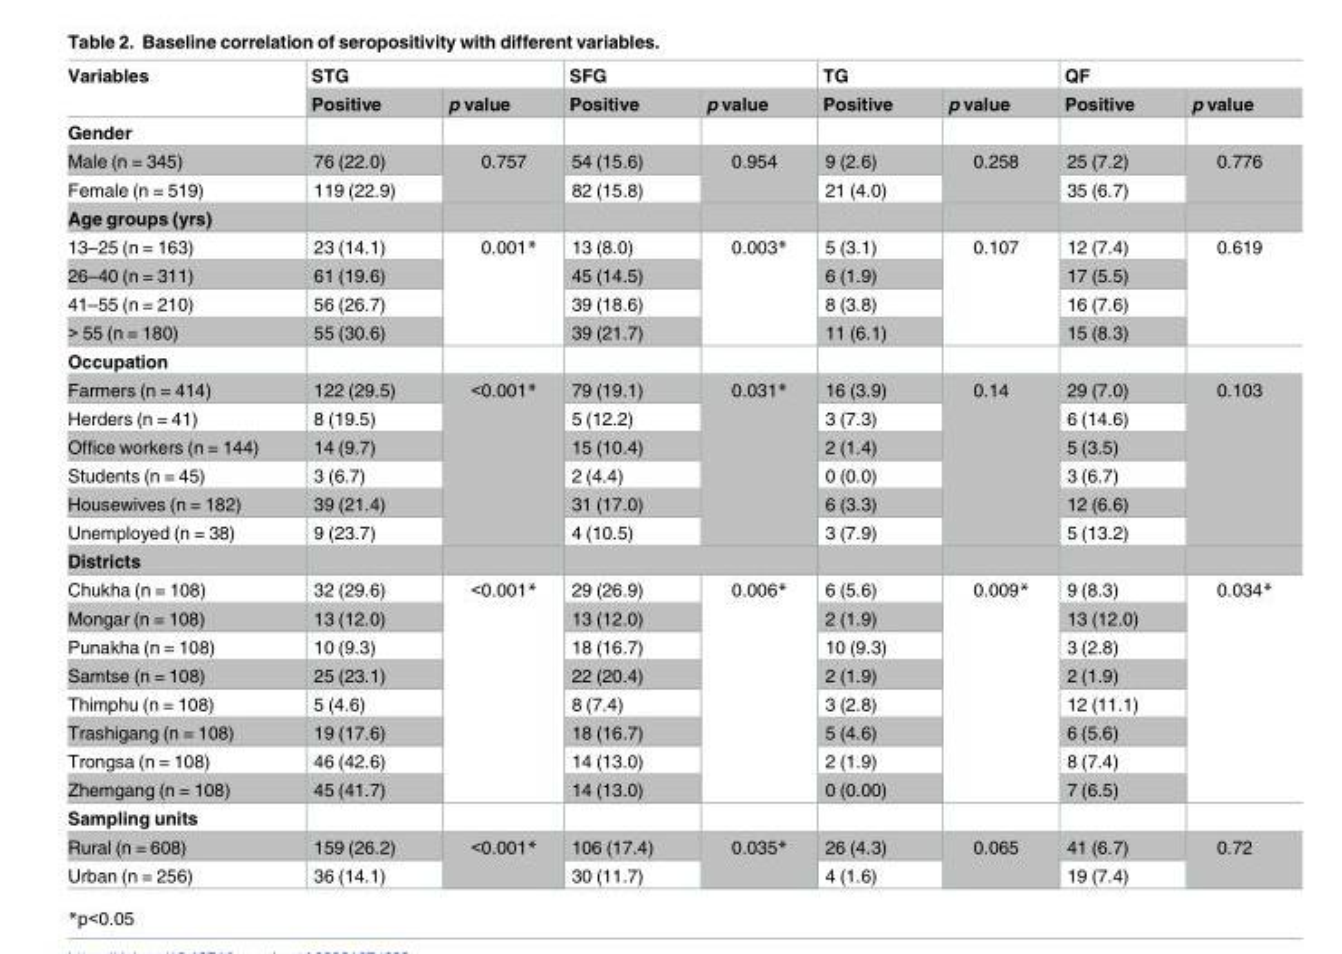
<table><thead><tr><td rowspan="2">Variables</td><td colspan="2">STG</td><td colspan="2">SFG</td><td colspan="2">TG</td><td colspan="2">QF</td></tr><tr><td>Positive</td><td>p value</td><td>Positive</td><td>p value</td><td>Positive</td><td>p value</td><td>Positive</td><td>p value</td></tr></thead><tbody><tr><td colspan="9">Gender</td></tr><tr><td>Male (n = 345)</td><td>76 (22.0)</td><td rowspan="2">0.757</td><td>54 (15.6)</td><td rowspan="2">0.954</td><td>9 (2.6)</td><td rowspan="2">0.258</td><td>25 (7.2)</td><td rowspan="2">0.776</td></tr><tr><td>Female (n = 519)</td><td>119 (22.9)</td><td>82 (15.8)</td><td>21 (4.0)</td><td>35 (6.7)</td></tr><tr><td colspan="9">Age groups (yrs)</td></tr><tr><td>13–25 (n = 163)</td><td>23 (14.1)</td><td rowspan="4">0.001*</td><td>13 (8.0)</td><td rowspan="4">0.003*</td><td>5 (3.1)</td><td rowspan="4">0.107</td><td>12 (7.4)</td><td rowspan="4">0.619</td></tr><tr><td>26–40 (n = 311)</td><td>61 (19.6)</td><td>45 (14.5)</td><td>6 (1.9)</td><td>17 (5.5)</td></tr><tr><td>41–55 (n = 210)</td><td>56 (26.7)</td><td>39 (18.6)</td><td>8 (3.8)</td><td>16 (7.6)</td></tr><tr><td>&gt; 55 (n = 180)</td><td>55 (30.6)</td><td>39 (21.7)</td><td>11 (6.1)</td><td>15 (8.3)</td></tr><tr><td colspan="9">Occupation</td></tr><tr><td>Farmers (n = 414)</td><td>122 (29.5)</td><td rowspan="6">&lt;0.001*</td><td>79 (19.1)</td><td rowspan="6">0.031*</td><td>16 (3.9)</td><td rowspan="6">0.14</td><td>29 (7.0)</td><td rowspan="6">0.103</td></tr><tr><td>Herders (n = 41)</td><td>8 (19.5)</td><td>5 (12.2)</td><td>3 (7.3)</td><td>6 (14.6)</td></tr><tr><td>Office workers (n = 144)</td><td>14 (9.7)</td><td>15 (10.4)</td><td>2 (1.4)</td><td>5 (3.5)</td></tr><tr><td>Students (n = 45)</td><td>3 (6.7)</td><td>2 (4.4)</td><td>0 (0.0)</td><td>3 (6.7)</td></tr><tr><td>Housewives (n = 182)</td><td>39 (21.4)</td><td>31 (17.0)</td><td>6 (3.3)</td><td>12 (6.6)</td></tr><tr><td>Unemployed (n = 38)</td><td>9 (23.7)</td><td>4 (10.5)</td><td>3 (7.9)</td><td>5 (13.2)</td></tr><tr><td colspan="9">Districts</td></tr><tr><td>Chukha (n = 108)</td><td>32 (29.6)</td><td rowspan="8">&lt;0.001*</td><td>29 (26.9)</td><td rowspan="8">0.006*</td><td>6 (5.6)</td><td rowspan="8">0.009*</td><td>9 (8.3)</td><td rowspan="8">0.034*</td></tr><tr><td>Mongar (n = 108)</td><td>13 (12.0)</td><td>13 (12.0)</td><td>2 (1.9)</td><td>13 (12.0)</td></tr><tr><td>Punakha (n = 108)</td><td>10 (9.3)</td><td>18 (16.7)</td><td>10 (9.3)</td><td>3 (2.8)</td></tr><tr><td>Samtse (n = 108)</td><td>25 (23.1)</td><td>22 (20.4)</td><td>2 (1.9)</td><td>2 (1.9)</td></tr><tr><td>Thimphu (n = 108)</td><td>5 (4.6)</td><td>8 (7.4)</td><td>3 (2.8)</td><td>12 (11.1)</td></tr><tr><td>Trashigang (n = 108)</td><td>19 (17.6)</td><td>18 (16.7)</td><td>5 (4.6)</td><td>6 (5.6)</td></tr><tr><td>Trongsa (n = 108)</td><td>46 (42.6)</td><td>14 (13.0)</td><td>2 (1.9)</td><td>8 (7.4)</td></tr><tr><td>Zhemgang (n = 108)</td><td>45 (41.7)</td><td>14 (13.0)</td><td>0 (0.00)</td><td>7 (6.5)</td></tr><tr><td colspan="9">Sampling units</td></tr><tr><td>Rural (n = 608)</td><td>159 (26.2)</td><td rowspan="2">&lt;0.001*</td><td>106 (17.4)</td><td rowspan="2">0.035*</td><td>26 (4.3)</td><td rowspan="2">0.065</td><td>41 (6.7)</td><td rowspan="2">0.72</td></tr><tr><td>Urban (n = 256)</td><td>36 (14.1)</td><td>30 (11.7)</td><td>4 (1.6)</td><td>19 (7.4)</td></tr></tbody></table>